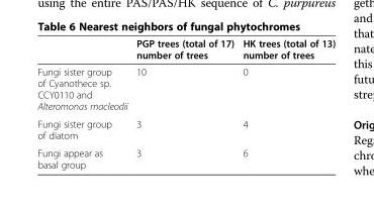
<table><thead><tr><td></td><td>PGP trees (total of 17) number of trees</td><td>HK trees (total of 13) number of trees</td></tr></thead><tbody><tr><td>Fungi sister group of Cyanothece sp. CCY0110 and Alteromonas macleodii</td><td>10</td><td>0</td></tr><tr><td>Fungi sister group of diatom</td><td>3</td><td>4</td></tr><tr><td>Fungi appear as basal group</td><td>3</td><td>6</td></tr></tbody></table>